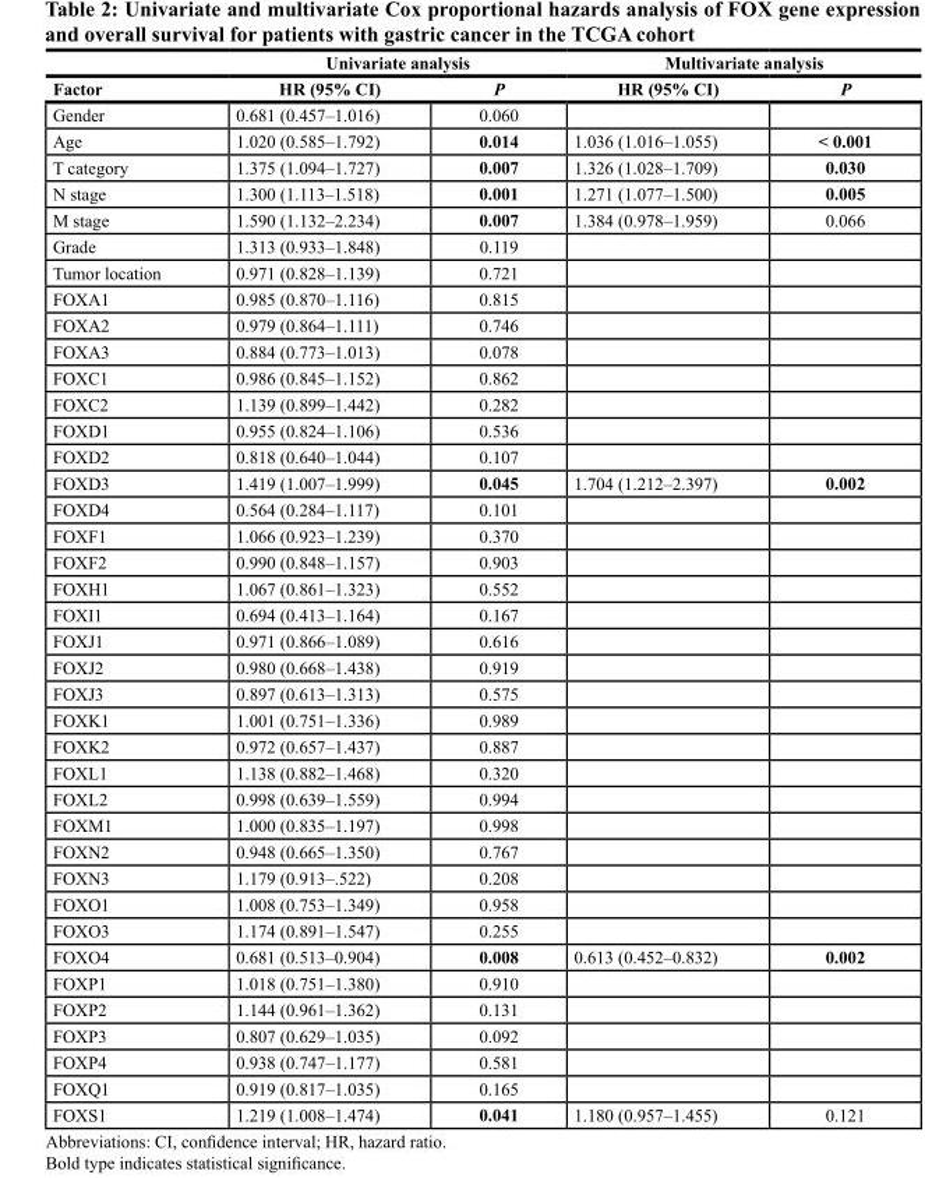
<table><thead><tr><td rowspan="2">Factor</td><td colspan="2">Univariate analysis</td><td colspan="2">Multivariate analysis</td></tr><tr><td>HR (95% CI)</td><td>P</td><td>HR (95% CI)</td><td>P</td></tr></thead><tbody><tr><td>Gender</td><td>0.681 (0.457–1.016)</td><td>0.060</td><td></td><td></td></tr><tr><td>Age</td><td>1.020 (0.585–1.792)</td><td>0.014</td><td>1.036 (1.016–1.055)</td><td>&lt; 0.001</td></tr><tr><td>T category</td><td>1.375 (1.094–1.727)</td><td>0.007</td><td>1.326 (1.028–1.709)</td><td>0.030</td></tr><tr><td>N stage</td><td>1.300 (1.113–1.518)</td><td>0.001</td><td>1.271 (1.077–1.500)</td><td>0.005</td></tr><tr><td>M stage</td><td>1.590 (1.132–2.234)</td><td>0.007</td><td>1.384 (0.978–1.959)</td><td>0.066</td></tr><tr><td>Grade</td><td>1.313 (0.933–1.848)</td><td>0.119</td><td></td><td></td></tr><tr><td>Tumor location</td><td>0.971 (0.828–1.139)</td><td>0.721</td><td></td><td></td></tr><tr><td>FOXA1</td><td>0.985 (0.870–1.116)</td><td>0.815</td><td></td><td></td></tr><tr><td>FOXA2</td><td>0.979 (0.864–1.111)</td><td>0.746</td><td></td><td></td></tr><tr><td>FOXA3</td><td>0.884 (0.773–1.013)</td><td>0.078</td><td></td><td></td></tr><tr><td>FOXC1</td><td>0.986 (0.845–1.152)</td><td>0.862</td><td></td><td></td></tr><tr><td>FOXC2</td><td>1.139 (0.899–1.442)</td><td>0.282</td><td></td><td></td></tr><tr><td>FOXD1</td><td>0.955 (0.824–1.106)</td><td>0.536</td><td></td><td></td></tr><tr><td>FOXD2</td><td>0.818 (0.640–1.044)</td><td>0.107</td><td></td><td></td></tr><tr><td>FOXD3</td><td>1.419 (1.007–1.999)</td><td>0.045</td><td>1.704 (1.212–2.397)</td><td>0.002</td></tr><tr><td>FOXD4</td><td>0.564 (0.284–1.117)</td><td>0.101</td><td></td><td></td></tr><tr><td>FOXF1</td><td>1.066 (0.923–1.239)</td><td>0.370</td><td></td><td></td></tr><tr><td>FOXF2</td><td>0.990 (0.848–1.157)</td><td>0.903</td><td></td><td></td></tr><tr><td>FOXH1</td><td>1.067 (0.861–1.323)</td><td>0.552</td><td></td><td></td></tr><tr><td>FOXI1</td><td>0.694 (0.413–1.164)</td><td>0.167</td><td></td><td></td></tr><tr><td>FOXJ1</td><td>0.971 (0.866–1.089)</td><td>0.616</td><td></td><td></td></tr><tr><td>FOXJ2</td><td>0.980 (0.668–1.438)</td><td>0.919</td><td></td><td></td></tr><tr><td>FOXJ3</td><td>0.897 (0.613–1.313)</td><td>0.575</td><td></td><td></td></tr><tr><td>FOXK1</td><td>1.001 (0.751–1.336)</td><td>0.989</td><td></td><td></td></tr><tr><td>FOXK2</td><td>0.972 (0.657–1.437)</td><td>0.887</td><td></td><td></td></tr><tr><td>FOXL1</td><td>1.138 (0.882–1.468)</td><td>0.320</td><td></td><td></td></tr><tr><td>FOXL2</td><td>0.998 (0.639–1.559)</td><td>0.994</td><td></td><td></td></tr><tr><td>FOXM1</td><td>1.000 (0.835–1.197)</td><td>0.998</td><td></td><td></td></tr><tr><td>FOXN2</td><td>0.948 (0.665–1.350)</td><td>0.767</td><td></td><td></td></tr><tr><td>FOXN3</td><td>1.179 (0.913–.522)</td><td>0.208</td><td></td><td></td></tr><tr><td>FOXO1</td><td>1.008 (0.753–1.349)</td><td>0.958</td><td></td><td></td></tr><tr><td>FOXO3</td><td>1.174 (0.891–1.547)</td><td>0.255</td><td></td><td></td></tr><tr><td>FOXO4</td><td>0.681 (0.513–0.904)</td><td>0.008</td><td>0.613 (0.452–0.832)</td><td>0.002</td></tr><tr><td>FOXP1</td><td>1.018 (0.751–1.380)</td><td>0.910</td><td></td><td></td></tr><tr><td>FOXP2</td><td>1.144 (0.961–1.362)</td><td>0.131</td><td></td><td></td></tr><tr><td>FOXP3</td><td>0.807 (0.629–1.035)</td><td>0.092</td><td></td><td></td></tr><tr><td>FOXP4</td><td>0.938 (0.747–1.177)</td><td>0.581</td><td></td><td></td></tr><tr><td>FOXQ1</td><td>0.919 (0.817–1.035)</td><td>0.165</td><td></td><td></td></tr><tr><td>FOXS1</td><td>1.219 (1.008–1.474)</td><td>0.041</td><td>1.180 (0.957–1.455)</td><td>0.121</td></tr></tbody></table>